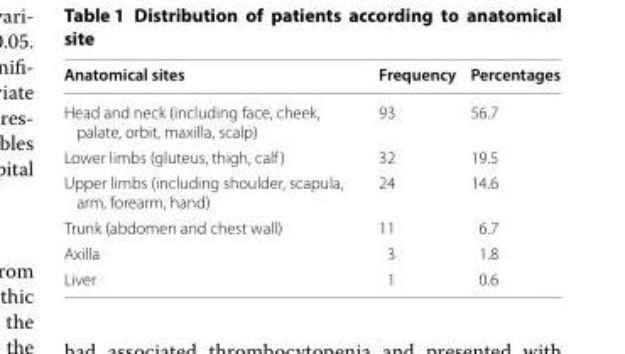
<table><thead><tr><td>Anatomical sites</td><td>Frequency</td><td>Percentages</td></tr></thead><tbody><tr><td>Head and neck (including face, cheek, palate, orbit, maxilla, scalp)</td><td>93</td><td>56.7</td></tr><tr><td>Lower limbs (gluteus, thigh, calf)</td><td>32</td><td>19.5</td></tr><tr><td>Upper limbs (including shoulder, scapula, arm, forearm, hand)</td><td>24</td><td>14.6</td></tr><tr><td>Trunk (abdomen and chest wall)</td><td>11</td><td>6.7</td></tr><tr><td>Axilla</td><td>3</td><td>1.8</td></tr><tr><td>Liver</td><td>1</td><td>0.6</td></tr></tbody></table>